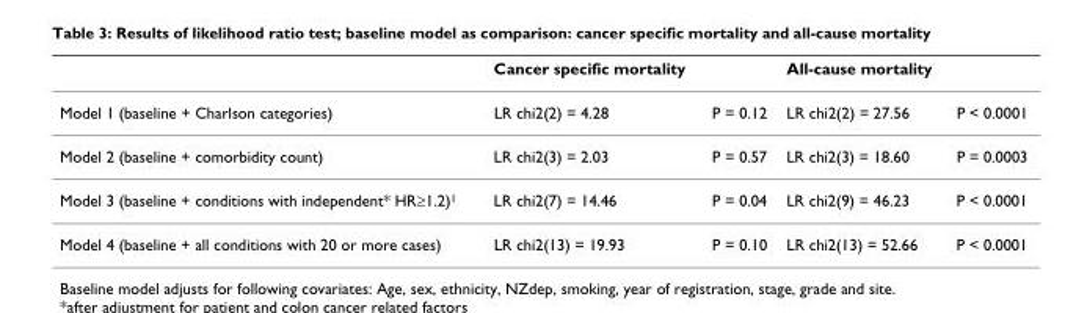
<table><thead><tr><td></td><td>Cancer specific mortality</td><td></td><td>All-cause mortality</td><td></td></tr></thead><tbody><tr><td>Model 1 (baseline + Charlson categories)</td><td>LR chi2(2) = 4.28</td><td>P = 0.12</td><td>LR chi2(2) = 27.56</td><td>P &lt; 0.0001</td></tr><tr><td>Model 2 (baseline + comorbidity count)</td><td>LR chi2(3) = 2.03</td><td>P = 0.57</td><td>LR chi2(3) = 18.60</td><td>P = 0.0003</td></tr><tr><td>Model 3 (baseline + conditions with independent* HR≥1.2)<sup>1</sup></td><td>LR chi2(7) = 14.46</td><td>P = 0.04</td><td>LR chi2(9) = 46.23</td><td>P &lt; 0.0001</td></tr><tr><td>Model 4 (baseline + all conditions with 20 or more cases)</td><td>LR chi2(13) = 19.93</td><td>P = 0.10</td><td>LR chi2(13) = 52.66</td><td>P &lt; 0.0001</td></tr></tbody></table>